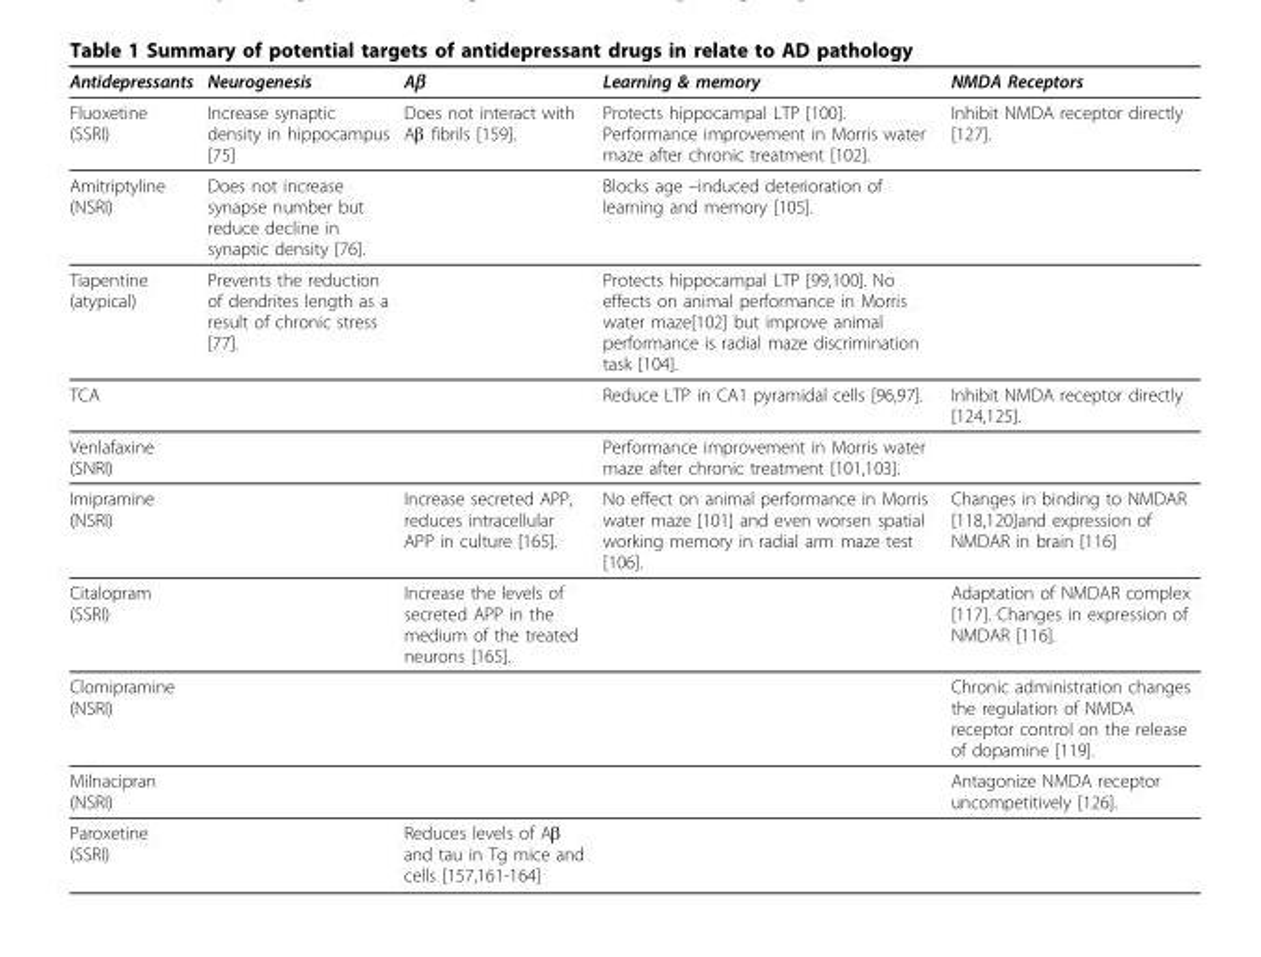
<table><thead><tr><td>Antidepressants</td><td>Neurogenesis</td><td>Aβ</td><td>Learning &amp; memory</td><td>NMDA Receptors</td></tr></thead><tbody><tr><td>Fluoxetine (SSRI)</td><td>Increase synaptic density in hippocampus [75]</td><td>Does not interact with Aβ fibrils [159].</td><td>Protects hippocampal LTP [100]. Performance improvement in Morris water maze after chronic treatment [102].</td><td>Inhibit NMDA receptor directly [127].</td></tr><tr><td>Amitriptyline (NSRI)</td><td>Does not increase synapse number but reduce decline in synaptic density [76].</td><td></td><td>Blocks age –induced deterioration of learning and memory [105].</td><td></td></tr><tr><td>Tiapentine (atypical)</td><td>Prevents the reduction of dendrites length as a result of chronic stress [77].</td><td></td><td>Protects hippocampal LTP [99,100]. No effects on animal performance in Morris water maze[102] but improve animal performance is radial maze discrimination task [104].</td><td></td></tr><tr><td>TCA</td><td></td><td></td><td>Reduce LTP in CA1 pyramidal cells [96,97].</td><td>Inhibit NMDA receptor directly [124,125].</td></tr><tr><td>Venlafaxine (SNRI)</td><td></td><td></td><td>Performance improvement in Morris water maze after chronic treatment [101,103].</td><td></td></tr><tr><td>Imipramine (NSRI)</td><td></td><td>Increase secreted APP, reduces intracellular APP in culture [165].</td><td>No effect on animal performance in Morris water maze [101] and even worsen spatial working memory in radial arm maze test [106].</td><td>Changes in binding to NMDAR [118,120]and expression of NMDAR in brain [116]</td></tr><tr><td>Citalopram (SSRI)</td><td></td><td>Increase the levels of secreted APP in the medium of the treated neurons [165].</td><td></td><td>Adaptation of NMDAR complex [117]. Changes in expression of NMDAR [116].</td></tr><tr><td>Clomipramine (NSRI)</td><td></td><td></td><td></td><td>Chronic administration changes the regulation of NMDA receptor control on the release of dopamine [119].</td></tr><tr><td>Milnacipran (NSRI)</td><td></td><td></td><td></td><td>Antagonize NMDA receptor uncompetitively [126].</td></tr><tr><td>Paroxetine (SSRI)</td><td></td><td>Reduces levels of Aβ and tau in Tg mice and cells [157,161-164]</td><td></td><td></td></tr></tbody></table>